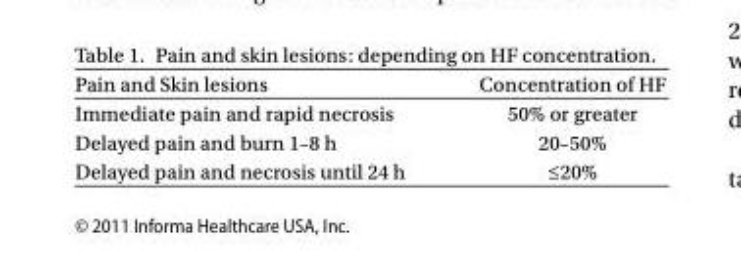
<table><thead><tr><td>Pain and Skin lesions</td><td>Concentration of HF</td></tr></thead><tbody><tr><td>Immediate pain and rapid necrosis</td><td>50% or greater</td></tr><tr><td>Delayed pain and burn 1–8 h</td><td>20–50%</td></tr><tr><td>Delayed pain and necrosis until 24 h</td><td>≤20%</td></tr></tbody></table>